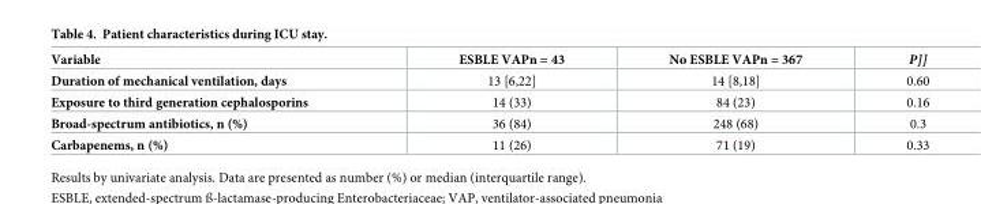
<table><thead><tr><td>Variable</td><td>ESBLE VAPn = 43</td><td>No ESBLE VAPn = 367</td><td>P]]</td></tr></thead><tbody><tr><td>Duration of mechanical ventilation, days</td><td>13 [6,22]</td><td>14 [8,18]</td><td>0.60</td></tr><tr><td>Exposure to third generation cephalosporins</td><td>14 (33)</td><td>84 (23)</td><td>0.16</td></tr><tr><td>Broad-spectrum antibiotics, n (%)</td><td>36 (84)</td><td>248 (68)</td><td>0.3</td></tr><tr><td>Carbapenems, n (%)</td><td>11 (26)</td><td>71 (19)</td><td>0.33</td></tr></tbody></table>